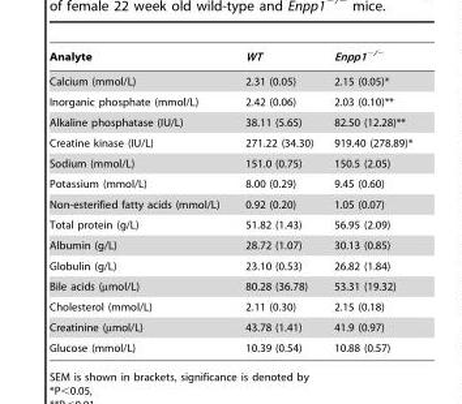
<table><thead><tr><td>Analyte</td><td>WT</td><td>Enpp1<sup>−/−</sup></td></tr></thead><tbody><tr><td>Calcium (mmol/L)</td><td>2.31 (0.05)</td><td>2.15 (0.05)*</td></tr><tr><td>Inorganic phosphate (mmol/L)</td><td>2.42 (0.06)</td><td>2.03 (0.10)**</td></tr><tr><td>Alkaline phosphatase (IU/L)</td><td>38.11 (5.65)</td><td>82.50 (12.28)**</td></tr><tr><td>Creatine kinase (IU/L)</td><td>271.22 (34.30)</td><td>919.40 (278.89)*</td></tr><tr><td>Sodium (mmol/L)</td><td>151.0 (0.75)</td><td>150.5 (2.05)</td></tr><tr><td>Potassium (mmol/L)</td><td>8.00 (0.29)</td><td>9.45 (0.60)</td></tr><tr><td>Non-esterified fatty acids (mmol/L)</td><td>0.92 (0.20)</td><td>1.05 (0.07)</td></tr><tr><td>Total protein (g/L)</td><td>51.82 (1.43)</td><td>56.95 (2.09)</td></tr><tr><td>Albumin (g/L)</td><td>28.72 (1.07)</td><td>30.13 (0.85)</td></tr><tr><td>Globulin (g/L)</td><td>23.10 (0.53)</td><td>26.82 (1.84)</td></tr><tr><td>Bile acids (µmol/L)</td><td>80.28 (36.78)</td><td>53.31 (19.32)</td></tr><tr><td>Cholesterol (mmol/L)</td><td>2.11 (0.30)</td><td>2.15 (0.18)</td></tr><tr><td>Creatinine (µmol/L)</td><td>43.78 (1.41)</td><td>41.9 (0.97)</td></tr><tr><td>Glucose (mmol/L)</td><td>10.39 (0.54)</td><td>10.88 (0.57)</td></tr></tbody></table>